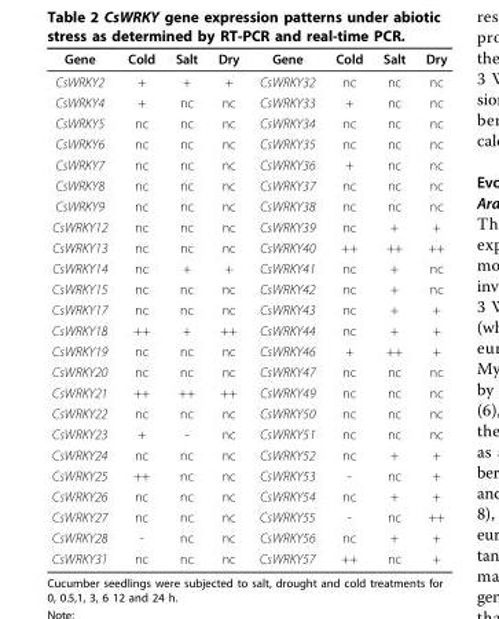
<table><thead><tr><td>Gene</td><td>Cold</td><td>Salt</td><td>Dry</td><td>Gene</td><td>Cold</td><td>Salt</td><td>Dry</td></tr></thead><tbody><tr><td>CsWRKY2</td><td>+</td><td>+</td><td>+</td><td>CsWRKY32</td><td>nc</td><td>nc</td><td>nc</td></tr><tr><td>CsWRKY4</td><td>+</td><td>nc</td><td>nc</td><td>CsWRKY33</td><td>+</td><td>nc</td><td>nc</td></tr><tr><td>CsWRKY5</td><td>nc</td><td>nc</td><td>nc</td><td>CsWRKY34</td><td>nc</td><td>nc</td><td>nc</td></tr><tr><td>CsWRKY6</td><td>nc</td><td>nc</td><td>nc</td><td>CsWRKY35</td><td>nc</td><td>nc</td><td>nc</td></tr><tr><td>CsWRKY7</td><td>nc</td><td>nc</td><td>nc</td><td>CsWRKY36</td><td>+</td><td>nc</td><td>nc</td></tr><tr><td>CsWRKY8</td><td>nc</td><td>nc</td><td>nc</td><td>CsWRKY37</td><td>nc</td><td>nc</td><td>nc</td></tr><tr><td>CsWRKY9</td><td>nc</td><td>nc</td><td>nc</td><td>CsWRKY38</td><td>nc</td><td>nc</td><td>nc</td></tr><tr><td>CsWRKY12</td><td>nc</td><td>nc</td><td>nc</td><td>CsWRKY39</td><td>nc</td><td>+</td><td>+</td></tr><tr><td>CsWRKY13</td><td>nc</td><td>nc</td><td>nc</td><td>CsWRKY40</td><td>++</td><td>++</td><td>++</td></tr><tr><td>CsWRKY14</td><td>nc</td><td>+</td><td>+</td><td>CsWRKY41</td><td>nc</td><td>+</td><td>nc</td></tr><tr><td>CsWRKY15</td><td>nc</td><td>nc</td><td>nc</td><td>CsWRKY42</td><td>nc</td><td>+</td><td>nc</td></tr><tr><td>CsWRKY17</td><td>nc</td><td>nc</td><td>nc</td><td>CsWRKY43</td><td>nc</td><td>+</td><td>+</td></tr><tr><td>CsWRKY18</td><td>++</td><td>+</td><td>++</td><td>CsWRKY44</td><td>nc</td><td>+</td><td>+</td></tr><tr><td>CsWRKY19</td><td>nc</td><td>nc</td><td>nc</td><td>CsWRKY46</td><td>+</td><td>++</td><td>+</td></tr><tr><td>CsWRKY20</td><td>nc</td><td>nc</td><td>nc</td><td>CsWRKY47</td><td>nc</td><td>nc</td><td>nc</td></tr><tr><td>CsWRKY21</td><td>++</td><td>++</td><td>++</td><td>CsWRKY49</td><td>nc</td><td>nc</td><td>nc</td></tr><tr><td>CsWRKY22</td><td>nc</td><td>nc</td><td>nc</td><td>CsWRKY50</td><td>nc</td><td>nc</td><td>nc</td></tr><tr><td>CsWRKY23</td><td>+</td><td>-</td><td>nc</td><td>CsWRKY51</td><td>nc</td><td>nc</td><td>nc</td></tr><tr><td>CsWRKY24</td><td>nc</td><td>nc</td><td>nc</td><td>CsWRKY52</td><td>nc</td><td>+</td><td>+</td></tr><tr><td>CsWRKY25</td><td>++</td><td>nc</td><td>nc</td><td>CsWRKY53</td><td>-</td><td>nc</td><td>+</td></tr><tr><td>CsWRKY26</td><td>nc</td><td>nc</td><td>nc</td><td>CsWRKY54</td><td>nc</td><td>+</td><td>+</td></tr><tr><td>CsWRKY27</td><td>nc</td><td>nc</td><td>nc</td><td>CsWRKY55</td><td>-</td><td>nc</td><td>++</td></tr><tr><td>CsWRKY28</td><td>-</td><td>nc</td><td>nc</td><td>CsWRKY56</td><td>nc</td><td>+</td><td>+</td></tr><tr><td>CsWRKY31</td><td>nc</td><td>nc</td><td>nc</td><td>CsWRKY57</td><td>++</td><td>nc</td><td>+</td></tr></tbody></table>